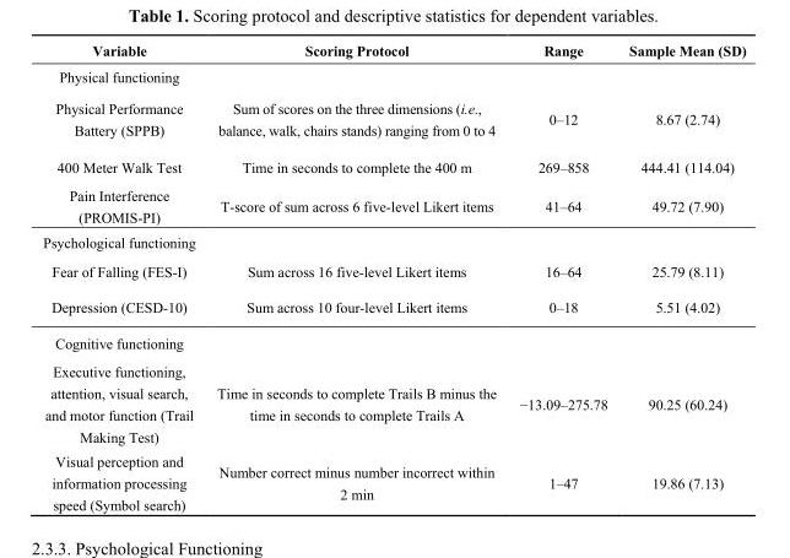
<table><thead><tr><td>Variable</td><td>Scoring Protocol</td><td>Range</td><td>Sample Mean (SD)</td></tr></thead><tbody><tr><td colspan="4">Physical functioning</td></tr><tr><td>Physical Performance Battery (SPPB)</td><td>Sum of scores on the three dimensions (i.e., balance, walk, chairs stands) ranging from 0 to 4</td><td>0–12</td><td>8.67 (2.74)</td></tr><tr><td>400 Meter Walk Test</td><td>Time in seconds to complete the 400 m</td><td>269–858</td><td>444.41 (114.04)</td></tr><tr><td>Pain Interference (PROMIS-PI)</td><td>T-score of sum across 6 five-level Likert items</td><td>41–64</td><td>49.72 (7.90)</td></tr><tr><td colspan="4">Psychological functioning</td></tr><tr><td>Fear of Falling (FES-I)</td><td>Sum across 16 five-level Likert items</td><td>16–64</td><td>25.79 (8.11)</td></tr><tr><td>Depression (CESD-10)</td><td>Sum across 10 four-level Likert items</td><td>0–18</td><td>5.51 (4.02)</td></tr><tr><td colspan="4">Cognitive functioning</td></tr><tr><td>Executive functioning, attention, visual search, and motor function (Trail Making Test)</td><td>Time in seconds to complete Trails B minus the time in seconds to complete Trails A</td><td>−13.09–275.78</td><td>90.25 (60.24)</td></tr><tr><td>Visual perception and information processing speed (Symbol search)</td><td>Number correct minus number incorrect within 2 min</td><td>1–47</td><td>19.86 (7.13)</td></tr></tbody></table>